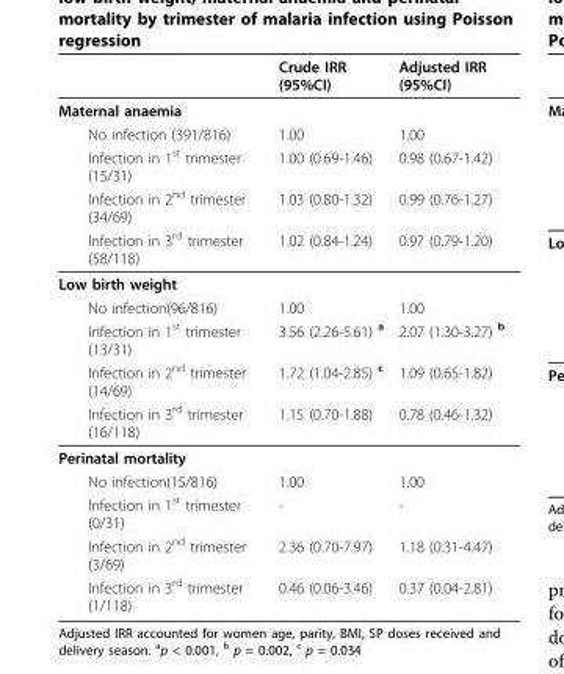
<table><thead><tr><td></td><td>Crude IRR (95%CI)</td><td>Adjusted IRR (95%CI)</td></tr></thead><tbody><tr><td colspan="3">Maternal anaemia</td></tr><tr><td>No infection (391/816)</td><td>1.00</td><td>1.00</td></tr><tr><td>Infection in 1<sup>st</sup> trimester (15/31)</td><td>1.00 (0.69-1.46)</td><td>0.98 (0.67-1.42)</td></tr><tr><td>Infection in 2<sup>nd</sup> trimester (34/69)</td><td>1.03 (0.80-1.32)</td><td>0.99 (0.76-1.27)</td></tr><tr><td>Infection in 3<sup>rd</sup> trimester (58/118)</td><td>1.02 (0.84-1.24)</td><td>0.97 (0.79-1.20)</td></tr><tr><td colspan="3">Low birth weight</td></tr><tr><td>No infection(96/816)</td><td>1.00</td><td>1.00</td></tr><tr><td>Infection in 1<sup>st</sup> trimester (13/31)</td><td>3.56 (2.26-5.61) <sup>a</sup></td><td>2.07 (1.30-3.27) <sup>b</sup></td></tr><tr><td>Infection in 2<sup>nd</sup> trimester (14/69)</td><td>1.72 (1.04-2.85) <sup>c</sup></td><td>1.09 (0.65-1.82)</td></tr><tr><td>Infection in 3<sup>rd</sup> trimester (16/118)</td><td>1.15 (0.70-1.88)</td><td>0.78 (0.46-1.32)</td></tr><tr><td colspan="3">Perinatal mortality</td></tr><tr><td>No infection(15/816)</td><td>1.00</td><td>1.00</td></tr><tr><td>Infection in 1<sup>st</sup> trimester (0/31)</td><td>-</td><td>-</td></tr><tr><td>Infection in 2<sup>nd</sup> trimester (3/69)</td><td>2.36 (0.70-7.97)</td><td>1.18 (0.31-4.47)</td></tr><tr><td>Infection in 3<sup>rd</sup> trimester (1/118)</td><td>0.46 (0.06-3.46)</td><td>0.37 (0.04-2.81)</td></tr></tbody></table>